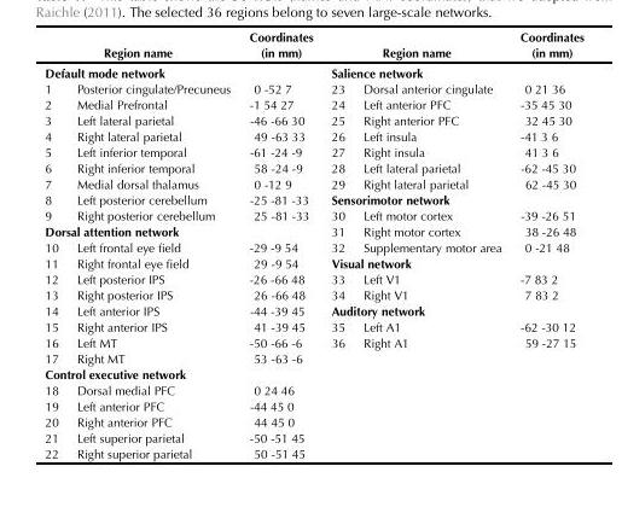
<table><thead><tr><td></td><td>Region name</td><td>(in mm)</td><td></td><td>Region name</td><td>(in mm)</td></tr></thead><tbody><tr><td colspan="2">Default mode network</td><td></td><td colspan="2">Salience network</td><td></td></tr><tr><td>1</td><td>Posterior cingulate/Precuneus</td><td>0 -52 7</td><td>23</td><td>Dorsal anterior cingulate</td><td>0 21 36</td></tr><tr><td>2</td><td>Medial Prefrontal</td><td>-1 54 27</td><td>24</td><td>Left anterior PFC</td><td>-35 45 30</td></tr><tr><td>3</td><td>Left lateral parietal</td><td>-46 -66 30</td><td>25</td><td>Right anterior PFC</td><td>32 45 30</td></tr><tr><td>4</td><td>Right lateral parietal</td><td>49 -63 33</td><td>26</td><td>Left insula</td><td>-41 3 6</td></tr><tr><td>5</td><td>Left inferior temporal</td><td>-61 -24 -9</td><td>27</td><td>Right insula</td><td>41 3 6</td></tr><tr><td>6</td><td>Right inferior temporal</td><td>58 -24 -9</td><td>28</td><td>Left lateral parietal</td><td>-62 -45 30</td></tr><tr><td>7</td><td>Medial dorsal thalamus</td><td>0 -12 9</td><td>29</td><td>Right lateral parietal</td><td>62 -45 30</td></tr><tr><td>8</td><td>Left posterior cerebellum</td><td>-25 -81 -33</td><td colspan="2">Sensorimotor network</td><td></td></tr><tr><td>9</td><td>Right posterior cerebellum</td><td>25 -81 -33</td><td>30</td><td>Left motor cortex</td><td>-39 -26 51</td></tr><tr><td colspan="2">Dorsal attention network</td><td></td><td>31</td><td>Right motor cortex</td><td>38 -26 48</td></tr><tr><td>10</td><td>Left frontal eye field</td><td>-29 -9 54</td><td>32</td><td>Supplementary motor area</td><td>0 -21 48</td></tr><tr><td>11</td><td>Right frontal eye field</td><td>29 -9 54</td><td colspan="2">Visual network</td><td></td></tr><tr><td>12</td><td>Left posterior IPS</td><td>-26 -66 48</td><td>33</td><td>Left V1</td><td>-7 83 2</td></tr><tr><td>13</td><td>Right posterior IPS</td><td>26 -66 48</td><td>34</td><td>Right V1</td><td>7 83 2</td></tr><tr><td>14</td><td>Left anterior IPS</td><td>-44 -39 45</td><td colspan="2">Auditory network</td><td></td></tr><tr><td>15</td><td>Right anterior IPS</td><td>41 -39 45</td><td>35</td><td>Left A1</td><td>-62 -30 12</td></tr><tr><td>16</td><td>Left MT</td><td>-50 -66 -6</td><td>36</td><td>Right A1</td><td>59 -27 15</td></tr><tr><td>17</td><td>Right MT</td><td>53 -63 -6</td><td></td><td></td><td></td></tr><tr><td colspan="6">Control executive network</td></tr><tr><td>18</td><td>Dorsal medial PFC</td><td>0 24 46</td><td></td><td></td><td></td></tr><tr><td>19</td><td>Left anterior PFC</td><td>-44 45 0</td><td></td><td></td><td></td></tr><tr><td>20</td><td>Right anterior PFC</td><td>44 45 0</td><td></td><td></td><td></td></tr><tr><td>21</td><td>Left superior parietal</td><td>-50 -51 45</td><td></td><td></td><td></td></tr><tr><td>22</td><td>Right superior parietal</td><td>50 -51 45</td><td></td><td></td><td></td></tr></tbody></table>